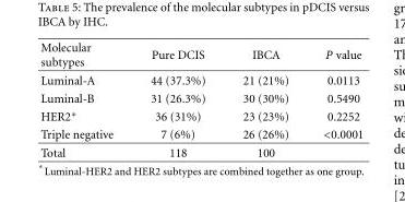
<table><thead><tr><td>Molecular subtypes</td><td>Pure DCIS</td><td>IBCA</td><td>P value</td></tr></thead><tbody><tr><td>Luminal-A</td><td>44 (37.3%)</td><td>21 (21%)</td><td>0.0113</td></tr><tr><td>Luminal-B</td><td>31 (26.3%)</td><td>30 (30%)</td><td>0.5490</td></tr><tr><td>HER2∗</td><td>36 (31%)</td><td>23 (23%)</td><td>0.2252</td></tr><tr><td>Triple negative</td><td>7 (6%)</td><td>26 (26%)</td><td>&lt;0.0001</td></tr><tr><td>Total</td><td>118</td><td>100</td><td></td></tr></tbody></table>